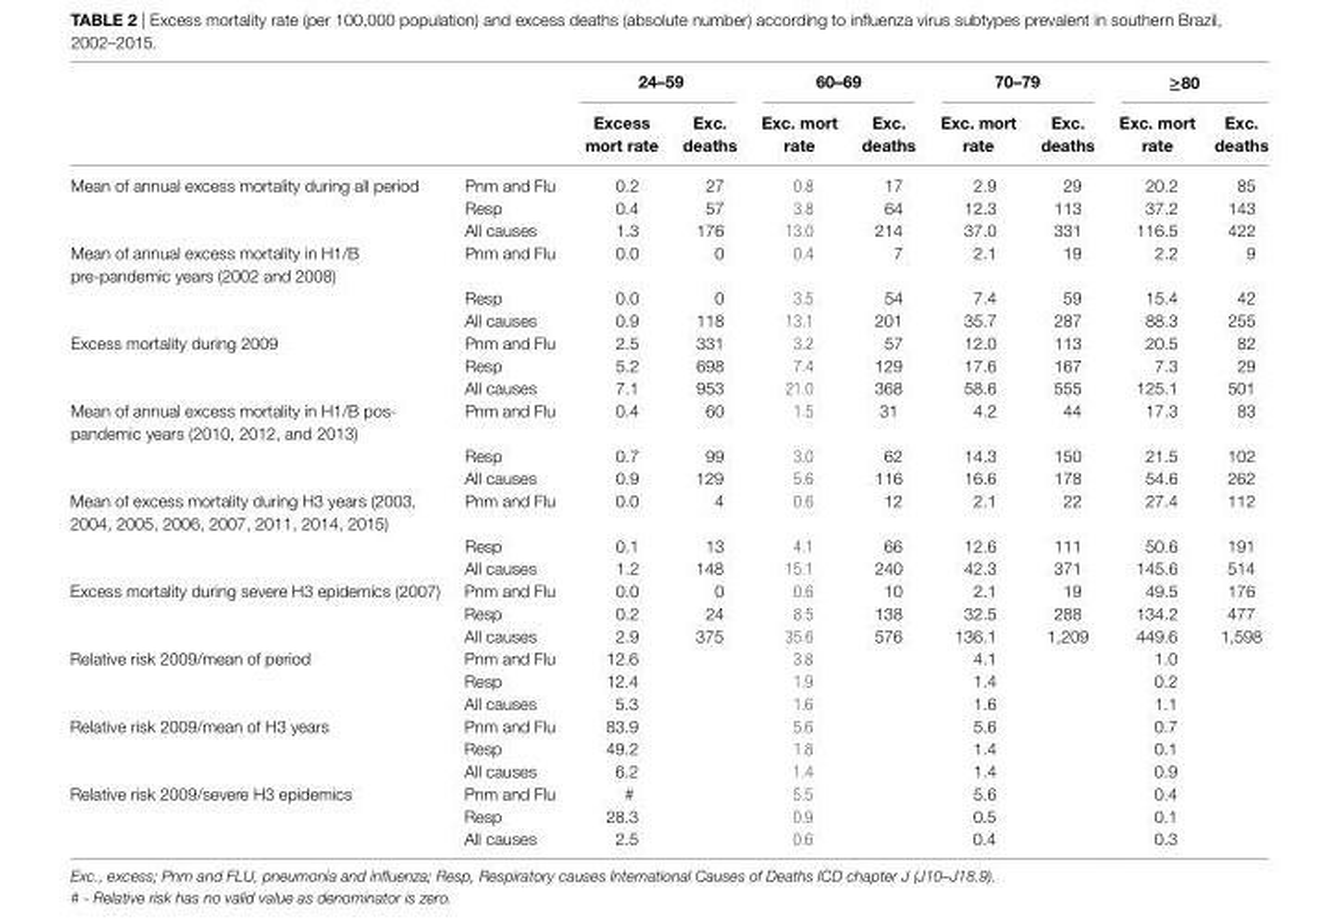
<table><thead><tr><td rowspan="2"></td><td rowspan="2"></td><td colspan="2">24–59</td><td colspan="2">60–69</td><td colspan="2">70–79</td><td colspan="2">≥80</td></tr><tr><td>excess mort rate</td><td>exc. deaths</td><td>exc. mort rate</td><td>exc. deaths</td><td>exc. mort rate</td><td>exc. deaths</td><td>exc. mort rate</td><td>exc. deaths</td></tr></thead><tbody><tr><td rowspan="3">Mean of annual excess mortality during all period</td><td>Pnm and Flu</td><td>0.2</td><td>27</td><td>0.8</td><td>17</td><td>2.9</td><td>29</td><td>20.2</td><td>85</td></tr><tr><td>Resp</td><td>0.4</td><td>57</td><td>3.8</td><td>64</td><td>12.3</td><td>113</td><td>37.2</td><td>143</td></tr><tr><td>All causes</td><td>1.3</td><td>176</td><td>13.0</td><td>214</td><td>37.0</td><td>331</td><td>116.5</td><td>422</td></tr><tr><td rowspan="3">Mean of annual excess mortality in H1/B pre-pandemic years (2002 and 2008)</td><td>Pnm and Flu</td><td>0.0</td><td>0</td><td>0.4</td><td>7</td><td>2.1</td><td>19</td><td>2.2</td><td>9</td></tr><tr><td>Resp</td><td>0.0</td><td>0</td><td>3.5</td><td>54</td><td>7.4</td><td>59</td><td>15.4</td><td>42</td></tr><tr><td>All causes</td><td>0.9</td><td>118</td><td>13.1</td><td>201</td><td>35.7</td><td>287</td><td>88.3</td><td>255</td></tr><tr><td rowspan="3">Excess mortality during 2009</td><td>Pnm and Flu</td><td>2.5</td><td>331</td><td>3.2</td><td>57</td><td>12.0</td><td>113</td><td>20.5</td><td>82</td></tr><tr><td>Resp</td><td>5.2</td><td>698</td><td>7.4</td><td>129</td><td>17.6</td><td>167</td><td>7.3</td><td>29</td></tr><tr><td>All causes</td><td>7.1</td><td>953</td><td>21.0</td><td>368</td><td>58.6</td><td>555</td><td>125.1</td><td>501</td></tr><tr><td rowspan="3">Mean of annual excess mortality in H1/B pos- pandemic years (2010, 2012, and 2013)</td><td>Pnm and Flu</td><td>0.4</td><td>60</td><td>1.5</td><td>31</td><td>4.2</td><td>44</td><td>17.3</td><td>83</td></tr><tr><td>Resp</td><td>0.7</td><td>99</td><td>3.0</td><td>62</td><td>14.3</td><td>150</td><td>21.5</td><td>102</td></tr><tr><td>All causes</td><td>0.9</td><td>129</td><td>5.6</td><td>116</td><td>16.6</td><td>178</td><td>54.6</td><td>262</td></tr><tr><td rowspan="3">Mean of excess mortality during H3 years (2003, 2004, 2005, 2006, 2007, 2011, 2014, 2015)</td><td>Pnm and Flu</td><td>0.0</td><td>4</td><td>0.6</td><td>12</td><td>2.1</td><td>22</td><td>27.4</td><td>112</td></tr><tr><td>Resp</td><td>0.1</td><td>13</td><td>4.1</td><td>66</td><td>12.6</td><td>111</td><td>50.6</td><td>191</td></tr><tr><td>All causes</td><td>1.2</td><td>148</td><td>15.1</td><td>240</td><td>42.3</td><td>371</td><td>145.6</td><td>514</td></tr><tr><td rowspan="3">Excess mortality during severe H3 epidemics (2007)</td><td>Pnm and Flu</td><td>0.0</td><td>0</td><td>0.6</td><td>10</td><td>2.1</td><td>19</td><td>49.5</td><td>176</td></tr><tr><td>Resp</td><td>0.2</td><td>24</td><td>8.5</td><td>138</td><td>32.5</td><td>288</td><td>134.2</td><td>477</td></tr><tr><td>All causes</td><td>2.9</td><td>375</td><td>35.6</td><td>576</td><td>136.1</td><td>1,209</td><td>449.6</td><td>1,598</td></tr><tr><td rowspan="3">Relative risk 2009/mean of period</td><td>Pnm and Flu</td><td>12.6</td><td></td><td>3.8</td><td></td><td>4.1</td><td></td><td>1.0</td><td></td></tr><tr><td>Resp</td><td>12.4</td><td></td><td>1.9</td><td></td><td>1.4</td><td></td><td>0.2</td><td></td></tr><tr><td>All causes</td><td>5.3</td><td></td><td>1.6</td><td></td><td>1.6</td><td></td><td>1.1</td><td></td></tr><tr><td rowspan="3">Relative risk 2009/mean of H3 years</td><td>Pnm and Flu</td><td>83.9</td><td></td><td>5.6</td><td></td><td>5.6</td><td></td><td>0.7</td><td></td></tr><tr><td>Resp</td><td>49.2</td><td></td><td>1.8</td><td></td><td>1.4</td><td></td><td>0.1</td><td></td></tr><tr><td>All causes</td><td>6.2</td><td></td><td>1.4</td><td></td><td>1.4</td><td></td><td>0.9</td><td></td></tr><tr><td rowspan="3">Relative risk 2009/severe H3 epidemics</td><td>Pnm and Flu</td><td>#</td><td></td><td>5.5</td><td></td><td>5.6</td><td></td><td>0.4</td><td></td></tr><tr><td>Resp</td><td>28.3</td><td></td><td>0.9</td><td></td><td>0.5</td><td></td><td>0.1</td><td></td></tr><tr><td>All causes</td><td>2.5</td><td></td><td>0.6</td><td></td><td>0.4</td><td></td><td>0.3</td><td></td></tr></tbody></table>